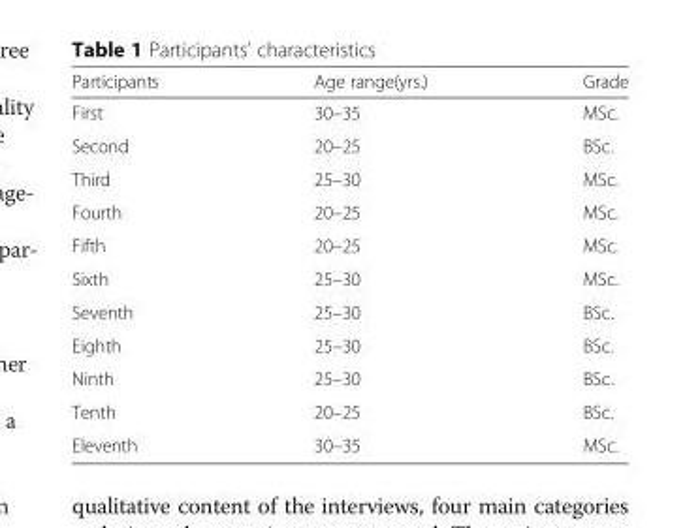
<table><thead><tr><td>Participants</td><td>Age range(yrs.)</td><td>Grade</td></tr></thead><tbody><tr><td>First</td><td>30–35</td><td>MSc.</td></tr><tr><td>Second</td><td>20–25</td><td>BSc.</td></tr><tr><td>Third</td><td>25–30</td><td>MSc.</td></tr><tr><td>Fourth</td><td>20–25</td><td>MSc.</td></tr><tr><td>Fifth</td><td>20–25</td><td>MSc.</td></tr><tr><td>Sixth</td><td>25–30</td><td>MSc.</td></tr><tr><td>Seventh</td><td>25–30</td><td>BSc.</td></tr><tr><td>Eighth</td><td>25–30</td><td>BSc.</td></tr><tr><td>Ninth</td><td>25–30</td><td>BSc.</td></tr><tr><td>Tenth</td><td>20–25</td><td>BSc.</td></tr><tr><td>Eleventh</td><td>30–35</td><td>MSc.</td></tr></tbody></table>